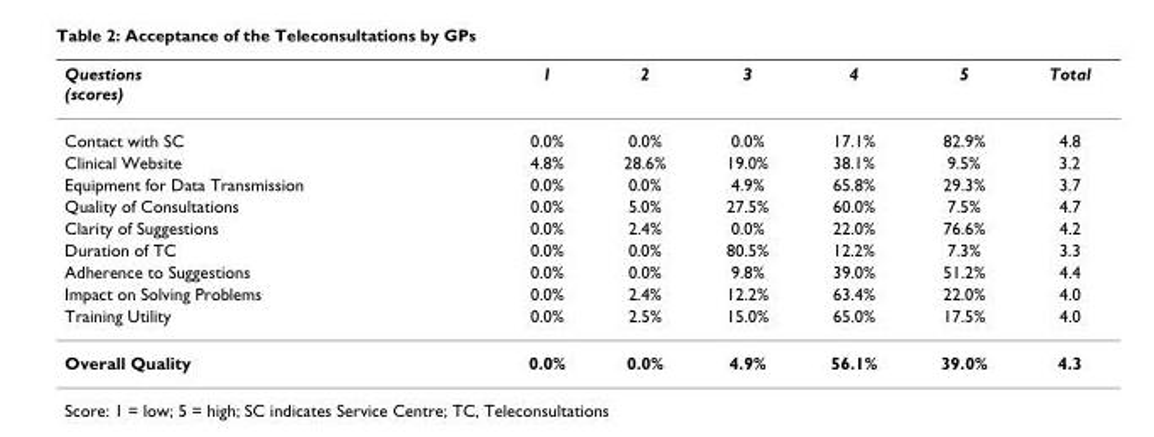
<table><thead><tr><td>Questions (scores)</td><td>1</td><td>2</td><td>3</td><td>4</td><td>5</td><td>Total</td></tr></thead><tbody><tr><td>Contact with SC</td><td>0.0%</td><td>0.0%</td><td>0.0%</td><td>17.1%</td><td>82.9%</td><td>4.8</td></tr><tr><td>Clinical Website</td><td>4.8%</td><td>28.6%</td><td>19.0%</td><td>38.1%</td><td>9.5%</td><td>3.2</td></tr><tr><td>Equipment for Data Transmission</td><td>0.0%</td><td>0.0%</td><td>4.9%</td><td>65.8%</td><td>29.3%</td><td>3.7</td></tr><tr><td>Quality of Consultations</td><td>0.0%</td><td>5.0%</td><td>27.5%</td><td>60.0%</td><td>7.5%</td><td>4.7</td></tr><tr><td>Clarity of Suggestions</td><td>0.0%</td><td>2.4%</td><td>0.0%</td><td>22.0%</td><td>76.6%</td><td>4.2</td></tr><tr><td>Duration of TC</td><td>0.0%</td><td>0.0%</td><td>80.5%</td><td>12.2%</td><td>7.3%</td><td>3.3</td></tr><tr><td>Adherence to Suggestions</td><td>0.0%</td><td>0.0%</td><td>9.8%</td><td>39.0%</td><td>51.2%</td><td>4.4</td></tr><tr><td>Impact on Solving Problems</td><td>0.0%</td><td>2.4%</td><td>12.2%</td><td>63.4%</td><td>22.0%</td><td>4.0</td></tr><tr><td>Training Utility</td><td>0.0%</td><td>2.5%</td><td>15.0%</td><td>65.0%</td><td>17.5%</td><td>4.0</td></tr><tr><td>Overall Quality</td><td>0.0%</td><td>0.0%</td><td>4.9%</td><td>56.1%</td><td>39.0%</td><td>4.3</td></tr></tbody></table>